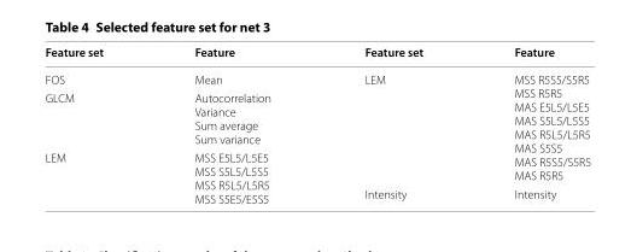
<table><thead><tr><td>Feature set</td><td>Feature</td><td>Feature set</td><td>Feature</td></tr></thead><tbody><tr><td>FOS</td><td>Mean</td><td rowspan="3">LEM</td><td rowspan="3">MSS R5S5/S5R5 MSS R5R5 MAS E5L5/L5E5 MAS S5L5/L5S5 MAS R5L5/L5R5 MAS S5S5 MAS R5S5/S5R5 MAS R5R5</td></tr><tr><td>GLCM</td><td>Autocorrelation Variance Sum average Sum variance</td></tr><tr><td rowspan="2">LEM</td><td rowspan="2">MSS E5L5/L5E5 MSS S5L5/L5S5 MSS R5L5/L5R5 MSS S5E5/E5S5</td></tr><tr><td>Intensity</td><td>Intensity</td></tr></tbody></table>